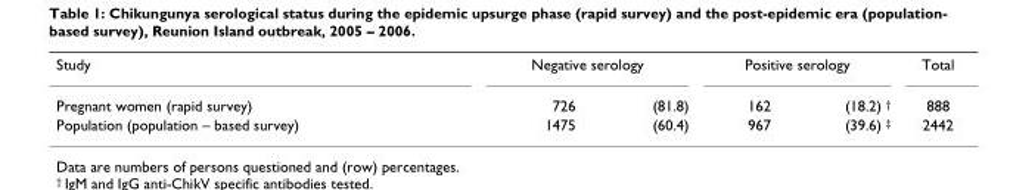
<table><tbody><tr><td>Study</td><td colspan="2">Negative serology</td><td colspan="2">Positive serology</td><td>Total</td></tr><tr><td>Pregnant women (rapid survey)</td><td>726</td><td>(81.8)</td><td>162</td><td>(18.2) <sup>†</sup></td><td>888</td></tr><tr><td>Population (population – based survey)</td><td>1475</td><td>(60.4)</td><td>967</td><td>(39.6) <sup>‡</sup></td><td>2442</td></tr></tbody></table>